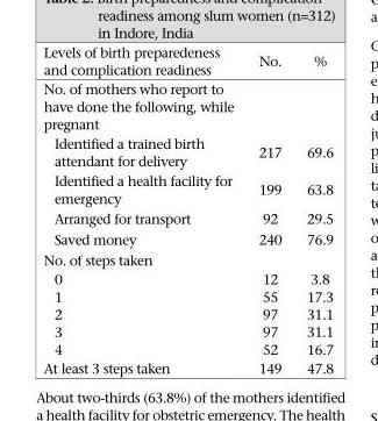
<table><thead><tr><td>Levels of birth preparedeness and complication readiness</td><td>No.</td><td>%</td></tr></thead><tbody><tr><td colspan="3">No. of mothers who report to have done the following, while pregnant</td></tr><tr><td>Identified a trained birth attendant for delivery</td><td>217</td><td>69.6</td></tr><tr><td>Identified a health facility for emergency</td><td>199</td><td>63.8</td></tr><tr><td>Arranged for transport</td><td>92</td><td>29.5</td></tr><tr><td>Saved money</td><td>240</td><td>76.9</td></tr><tr><td colspan="3">No. of steps taken</td></tr><tr><td>0</td><td>12</td><td>3.8</td></tr><tr><td>1</td><td>55</td><td>17.3</td></tr><tr><td>2</td><td>97</td><td>31.1</td></tr><tr><td>3</td><td>97</td><td>31.1</td></tr><tr><td>4</td><td>52</td><td>16.7</td></tr><tr><td>At least 3 steps taken</td><td>149</td><td>47.8</td></tr></tbody></table>